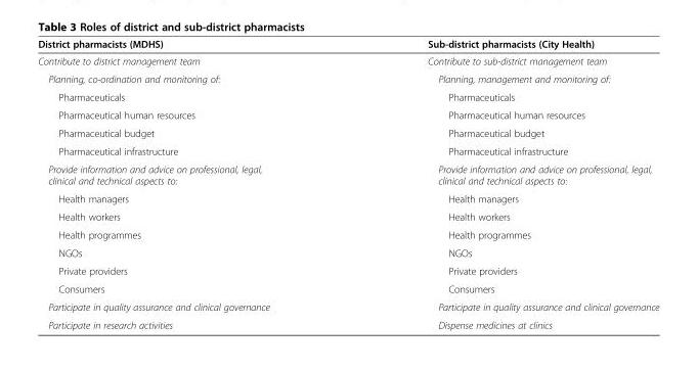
<table><thead><tr><td>District pharmacists (MDHS)</td><td>Sub-district pharmacists (City Health)</td></tr></thead><tbody><tr><td>Contribute to district management team</td><td>Contribute to sub-district management team</td></tr><tr><td>Planning, co-ordination and monitoring of:</td><td>Planning, management and monitoring of:</td></tr><tr><td>Pharmaceuticals</td><td>Pharmaceuticals</td></tr><tr><td>Pharmaceutical human resources</td><td>Pharmaceutical human resources</td></tr><tr><td>Pharmaceutical budget</td><td>Pharmaceutical budget</td></tr><tr><td>Pharmaceutical infrastructure</td><td>Pharmaceutical infrastructure</td></tr><tr><td>Provide information and advice on professional, legal, clinical and technical aspects to:</td><td>Provide information and advice on professional, legal, clinical and technical aspects to:</td></tr><tr><td>Health managers</td><td>Health managers</td></tr><tr><td>Health workers</td><td>Health workers</td></tr><tr><td>Health programmes</td><td>Health programmes</td></tr><tr><td>NGOs</td><td>NGOs</td></tr><tr><td>Private providers</td><td>Private providers</td></tr><tr><td>Consumers</td><td>Consumers</td></tr><tr><td>Participate in quality assurance and clinical governance</td><td>Participate in quality assurance and clinical governance</td></tr><tr><td>Participate in research activities</td><td>Dispense medicines at clinics</td></tr></tbody></table>